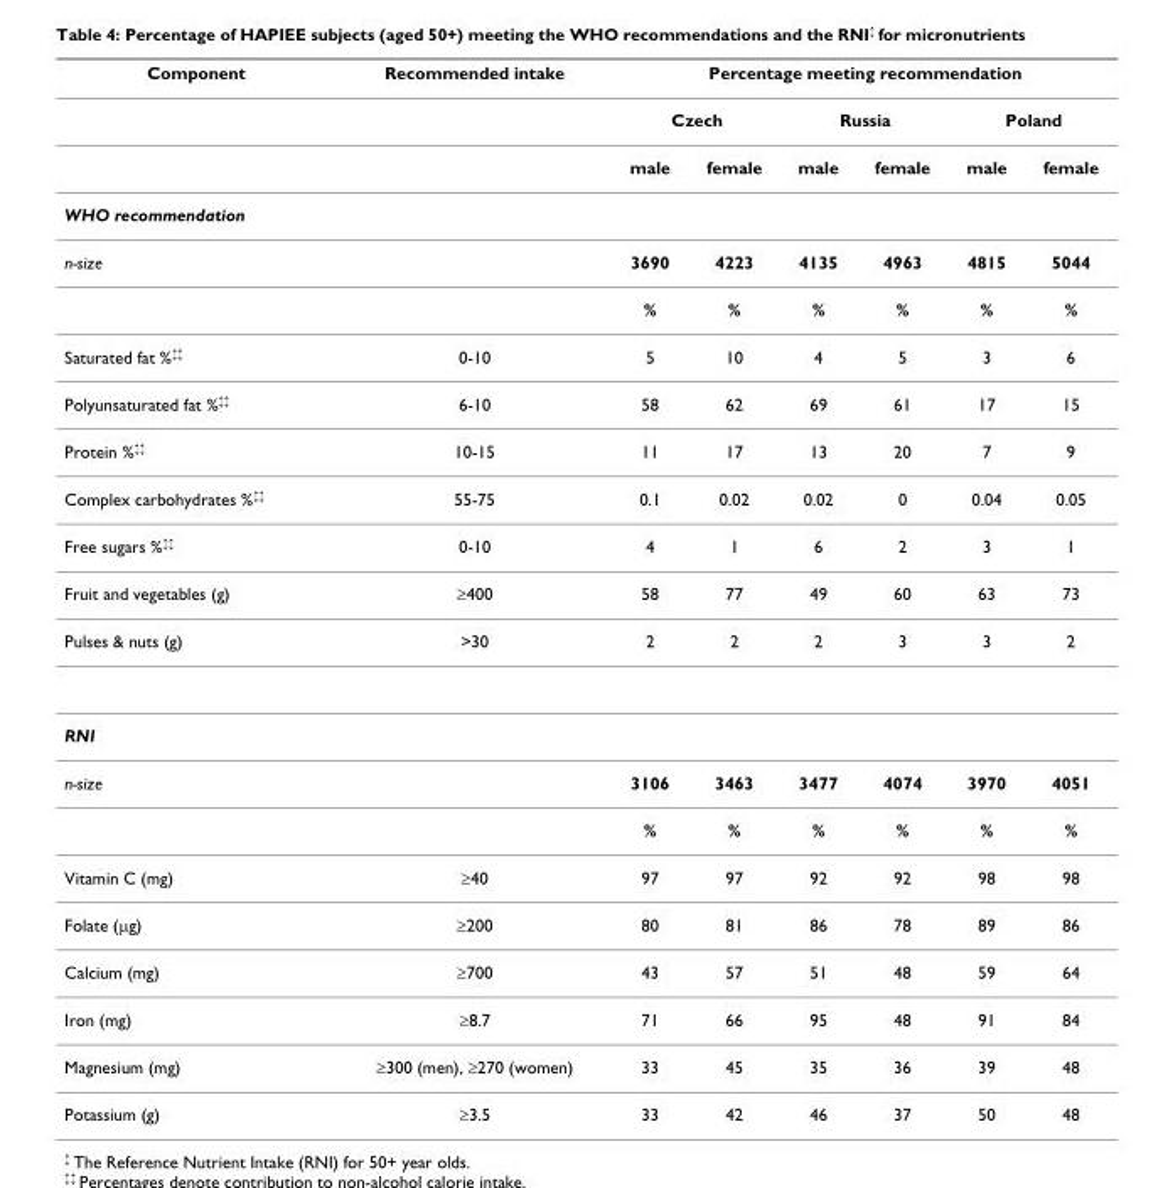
<table><thead><tr><td rowspan="3">Component</td><td rowspan="3">Recommended intake</td><td colspan="6">Percentage meeting recommendation</td></tr><tr><td colspan="2">Czech</td><td colspan="2">Russia</td><td colspan="2">Poland</td></tr><tr><td>male</td><td>female</td><td>male</td><td>female</td><td>male</td><td>female</td></tr></thead><tbody><tr><td colspan="8">WHO recommendation</td></tr><tr><td rowspan="2">n-size</td><td></td><td>3690</td><td>4223</td><td>4135</td><td>4963</td><td>4815</td><td>5044</td></tr><tr><td></td><td>%</td><td>%</td><td>%</td><td>%</td><td>%</td><td>%</td></tr><tr><td>Saturated fat %↕↕</td><td>0-10</td><td>5</td><td>10</td><td>4</td><td>5</td><td>3</td><td>6</td></tr><tr><td>Polyunsaturated fat %↕↕</td><td>6-10</td><td>58</td><td>62</td><td>69</td><td>61</td><td>17</td><td>15</td></tr><tr><td>Protein %↕↕</td><td>10-15</td><td>11</td><td>17</td><td>13</td><td>20</td><td>7</td><td>9</td></tr><tr><td>Complex carbohydrates %↕↕</td><td>55-75</td><td>0.1</td><td>0.02</td><td>0.02</td><td>0</td><td>0.04</td><td>0.05</td></tr><tr><td>Free sugars %↕↕</td><td>0-10</td><td>4</td><td>1</td><td>6</td><td>2</td><td>3</td><td>1</td></tr><tr><td>Fruit and vegetables (g)</td><td>≥400</td><td>58</td><td>77</td><td>49</td><td>60</td><td>63</td><td>73</td></tr><tr><td>Pulses &amp; nuts (g)</td><td>&gt;30</td><td>2</td><td>2</td><td>2</td><td>3</td><td>3</td><td>2</td></tr><tr><td colspan="8">RNI</td></tr><tr><td rowspan="2">n-size</td><td></td><td>3106</td><td>3463</td><td>3477</td><td>4074</td><td>3970</td><td>4051</td></tr><tr><td></td><td>%</td><td>%</td><td>%</td><td>%</td><td>%</td><td>%</td></tr><tr><td>Vitamin C (mg)</td><td>≥40</td><td>97</td><td>97</td><td>92</td><td>92</td><td>98</td><td>98</td></tr><tr><td>Folate (μg)</td><td>≥200</td><td>80</td><td>81</td><td>86</td><td>78</td><td>89</td><td>86</td></tr><tr><td>Calcium (mg)</td><td>≥700</td><td>43</td><td>57</td><td>51</td><td>48</td><td>59</td><td>64</td></tr><tr><td>Iron (mg)</td><td>≥8.7</td><td>71</td><td>66</td><td>95</td><td>48</td><td>91</td><td>84</td></tr><tr><td>Magnesium (mg)</td><td>≥300 (men), ≥270 (women)</td><td>33</td><td>45</td><td>35</td><td>36</td><td>39</td><td>48</td></tr><tr><td>Potassium (g)</td><td>≥3.5</td><td>33</td><td>42</td><td>46</td><td>37</td><td>50</td><td>48</td></tr></tbody></table>